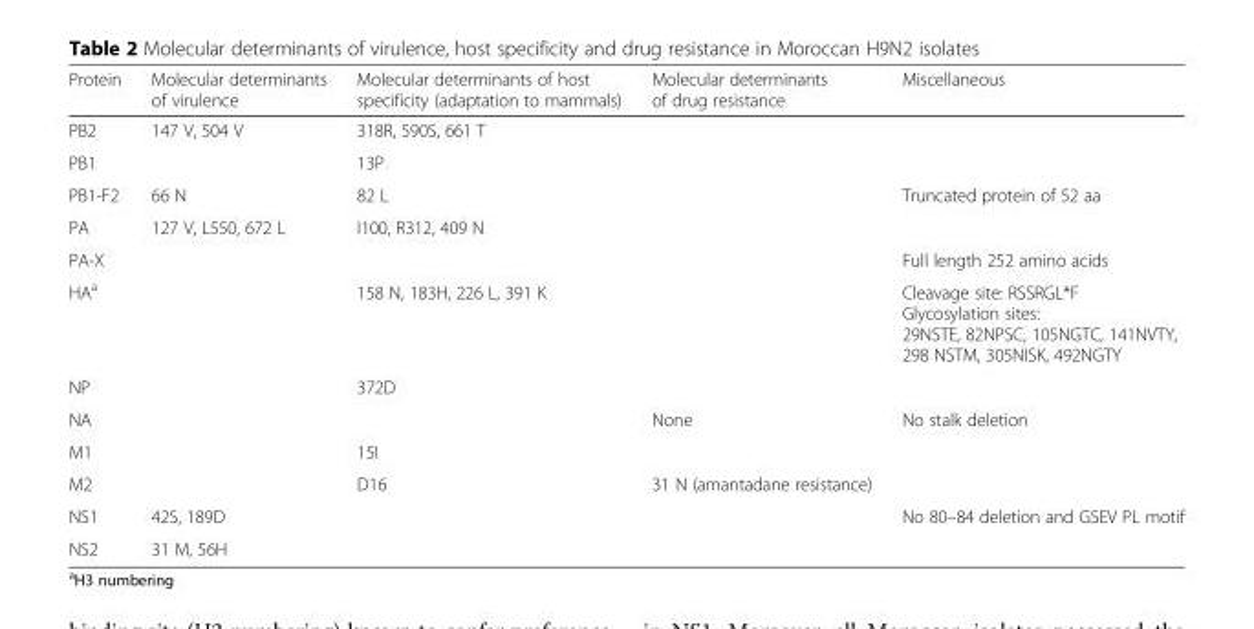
<table><thead><tr><td>Protein</td><td>Molecular determinants of virulence</td><td>Molecular determinants of host specificity (adaptation to mammals)</td><td>Molecular determinants of drug resistance</td><td>Miscellaneous</td></tr></thead><tbody><tr><td>PB2</td><td>147 V, 504 V</td><td>318R, 590S, 661 T</td><td></td><td></td></tr><tr><td>PB1</td><td></td><td>13P</td><td></td><td></td></tr><tr><td>PB1-F2</td><td>66 N</td><td>82 L</td><td></td><td>Truncated protein of 52 aa</td></tr><tr><td>PA</td><td>127 V, L550, 672 L</td><td>I100, R312, 409 N</td><td></td><td></td></tr><tr><td>PA-X</td><td></td><td></td><td></td><td>Full length 252 amino acids</td></tr><tr><td>HA<sup>a</sup></td><td></td><td>158 N, 183H, 226 L, 391 K</td><td></td><td>Cleavage site: RSSRGL*F Glycosylation sites: 29NSTE, 82NPSC, 105NGTC, 141NVTY, 298 NSTM, 305NISK, 492NGTY</td></tr><tr><td>NP</td><td></td><td>372D</td><td></td><td></td></tr><tr><td>NA</td><td></td><td></td><td>None</td><td>No stalk deletion</td></tr><tr><td>M1</td><td></td><td>15I</td><td></td><td></td></tr><tr><td>M2</td><td></td><td>D16</td><td>31 N (amantadane resistance)</td><td></td></tr><tr><td>NS1</td><td>42S, 189D</td><td></td><td></td><td>No 80–84 deletion and GSEV PL motif</td></tr><tr><td>NS2</td><td>31 M, 56H</td><td></td><td></td><td></td></tr></tbody></table>